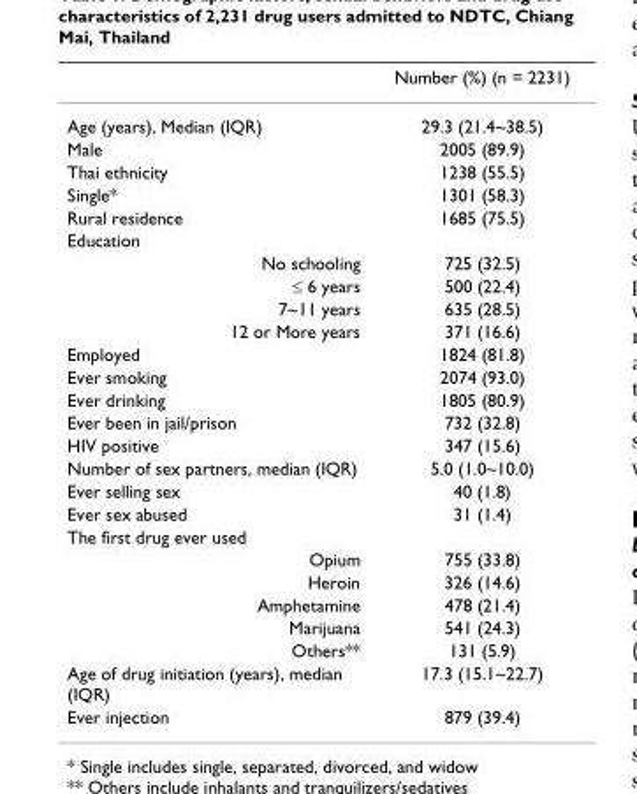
<table><thead><tr><td></td><td>Number (%) (n = 2231)</td></tr></thead><tbody><tr><td>Age (years), Median (IQR)</td><td>29.3 (21.4~38.5)</td></tr><tr><td>Male</td><td>2005 (89.9)</td></tr><tr><td>Thai ethnicity</td><td>1238 (55.5)</td></tr><tr><td>Single*</td><td>1301 (58.3)</td></tr><tr><td>Rural residence</td><td>1685 (75.5)</td></tr><tr><td colspan="2">Education</td></tr><tr><td>No schooling</td><td>725 (32.5)</td></tr><tr><td>≤ 6 years</td><td>500 (22.4)</td></tr><tr><td>7~11 years</td><td>635 (28.5)</td></tr><tr><td>12 or More years</td><td>371 (16.6)</td></tr><tr><td>Employed</td><td>1824 (81.8)</td></tr><tr><td>Ever smoking</td><td>2074 (93.0)</td></tr><tr><td>Ever drinking</td><td>1805 (80.9)</td></tr><tr><td>Ever been in jail/prison</td><td>732 (32.8)</td></tr><tr><td>HIV positive</td><td>347 (15.6)</td></tr><tr><td>Number of sex partners, median (IQR)</td><td>5.0 (1.0~10.0)</td></tr><tr><td>Ever selling sex</td><td>40 (1.8)</td></tr><tr><td>Ever sex abused</td><td>31 (1.4)</td></tr><tr><td colspan="2">The first drug ever used</td></tr><tr><td>Opium</td><td>755 (33.8)</td></tr><tr><td>Heroin</td><td>326 (14.6)</td></tr><tr><td>Amphetamine</td><td>478 (21.4)</td></tr><tr><td>Marijuana</td><td>541 (24.3)</td></tr><tr><td>Others**</td><td>131 (5.9)</td></tr><tr><td>Age of drug initiation (years), median (IQR)</td><td>17.3 (15.1~22.7)</td></tr><tr><td>Ever injection</td><td>879 (39.4)</td></tr></tbody></table>